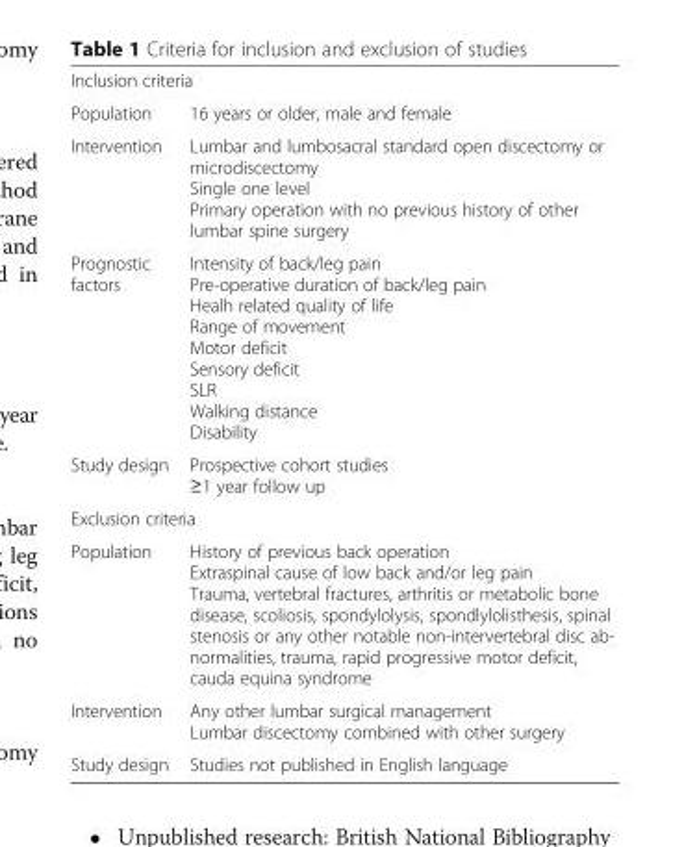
<table><tbody><tr><td colspan="2">Inclusion criteria</td></tr><tr><td>Population</td><td>16 years or older, male and female</td></tr><tr><td>Intervention</td><td>Lumbar and lumbosacral standard open discectomy or microdiscectomy Single one level Primary operation with no previous history of other lumbar spine surgery</td></tr><tr><td>Prognostic factors</td><td>Intensity of back/leg pain Pre-operative duration of back/leg pain Healh related quality of life Range of movement Motor deficit Sensory deficit SLR Walking distance Disability</td></tr><tr><td>Study design</td><td>Prospective cohort studies ≥1 year follow up</td></tr><tr><td colspan="2">Exclusion criteria</td></tr><tr><td>Population</td><td>History of previous back operation Extraspinal cause of low back and/or leg pain Trauma, vertebral fractures, arthritis or metabolic bone disease, scoliosis, spondylolysis, spondlylolisthesis, spinal stenosis or any other notable non-intervertebral disc ab- normalities, trauma, rapid progressive motor deficit, cauda equina syndrome</td></tr><tr><td>Intervention</td><td>Any other lumbar surgical management Lumbar discectomy combined with other surgery</td></tr><tr><td>Study design</td><td>Studies not published in English language</td></tr></tbody></table>